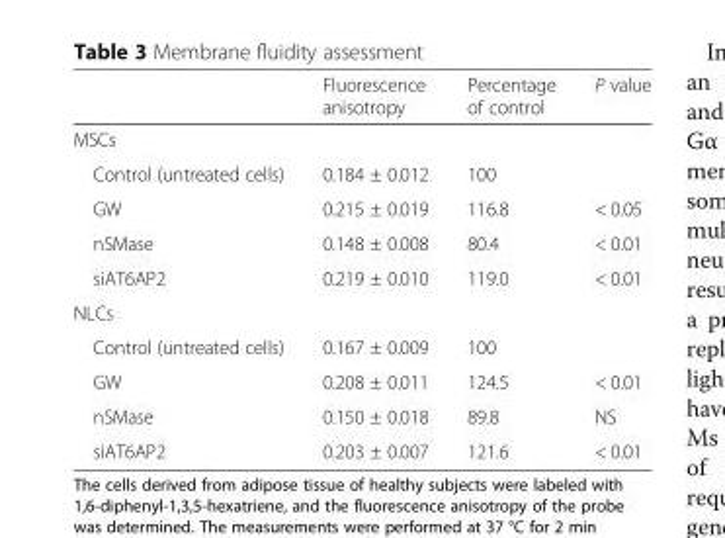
<table><thead><tr><td></td><td>Fluorescence anisotropy</td><td>Percentage of control</td><td>P value</td></tr></thead><tbody><tr><td colspan="4">MSCs</td></tr><tr><td>Control (untreated cells)</td><td>0.184 ± 0.012</td><td>100</td><td></td></tr><tr><td>GW</td><td>0.215 ± 0.019</td><td>116.8</td><td>&lt; 0.05</td></tr><tr><td>nSMase</td><td>0.148 ± 0.008</td><td>80.4</td><td>&lt; 0.01</td></tr><tr><td>siAT6AP2</td><td>0.219 ± 0.010</td><td>119.0</td><td>&lt; 0.01</td></tr><tr><td colspan="4">NLCs</td></tr><tr><td>Control (untreated cells)</td><td>0.167 ± 0.009</td><td>100</td><td></td></tr><tr><td>GW</td><td>0.208 ± 0.011</td><td>124.5</td><td>&lt; 0.01</td></tr><tr><td>nSMase</td><td>0.150 ± 0.018</td><td>89.8</td><td>NS</td></tr><tr><td>siAT6AP2</td><td>0.203 ± 0.007</td><td>121.6</td><td>&lt; 0.01</td></tr></tbody></table>